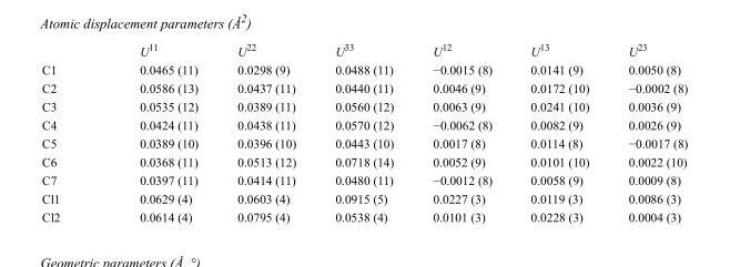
<table><thead><tr><td></td><td>U<sup>11</sup></td><td>U<sup>22</sup></td><td>U<sup>33</sup></td><td>U<sup>12</sup></td><td>U<sup>13</sup></td><td>U<sup>23</sup></td></tr></thead><tbody><tr><td>C1</td><td>0.0465 (11)</td><td>0.0298 (9)</td><td>0.0488 (11)</td><td>−0.0015 (8)</td><td>0.0141 (9)</td><td>0.0050 (8)</td></tr><tr><td>C2</td><td>0.0586 (13)</td><td>0.0437 (11)</td><td>0.0440 (11)</td><td>0.0046 (9)</td><td>0.0172 (10)</td><td>−0.0002 (8)</td></tr><tr><td>C3</td><td>0.0535 (12)</td><td>0.0389 (11)</td><td>0.0560 (12)</td><td>0.0063 (9)</td><td>0.0241 (10)</td><td>0.0036 (9)</td></tr><tr><td>C4</td><td>0.0424 (11)</td><td>0.0438 (11)</td><td>0.0570 (12)</td><td>−0.0062 (8)</td><td>0.0082 (9)</td><td>0.0026 (9)</td></tr><tr><td>C5</td><td>0.0389 (10)</td><td>0.0396 (10)</td><td>0.0443 (10)</td><td>0.0017 (8)</td><td>0.0114 (8)</td><td>−0.0017 (8)</td></tr><tr><td>C6</td><td>0.0368 (11)</td><td>0.0513 (12)</td><td>0.0718 (14)</td><td>0.0052 (9)</td><td>0.0101 (10)</td><td>0.0022 (10)</td></tr><tr><td>C7</td><td>0.0397 (11)</td><td>0.0414 (11)</td><td>0.0480 (11)</td><td>−0.0012 (8)</td><td>0.0058 (9)</td><td>0.0009 (8)</td></tr><tr><td>Cl1</td><td>0.0629 (4)</td><td>0.0603 (4)</td><td>0.0915 (5)</td><td>0.0227 (3)</td><td>0.0119 (3)</td><td>0.0086 (3)</td></tr><tr><td>Cl2</td><td>0.0614 (4)</td><td>0.0795 (4)</td><td>0.0538 (4)</td><td>0.0101 (3)</td><td>0.0228 (3)</td><td>0.0004 (3)</td></tr></tbody></table>